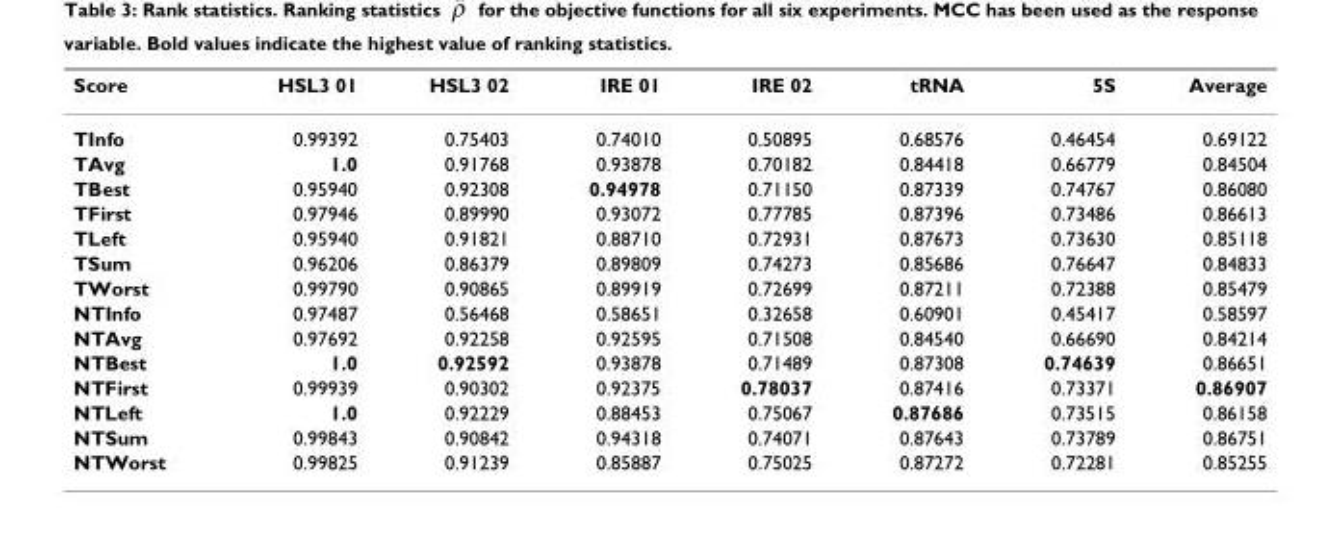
<table><thead><tr><td>Score</td><td>HSL3 01</td><td>HSL3 02</td><td>IRE 01</td><td>IRE 02</td><td>tRNA</td><td>5S</td><td>Average</td></tr></thead><tbody><tr><td>TInfo</td><td>0.99392</td><td>0.75403</td><td>0.74010</td><td>0.50895</td><td>0.68576</td><td>0.46454</td><td>0.69122</td></tr><tr><td>TAvg</td><td>1.0</td><td>0.91768</td><td>0.93878</td><td>0.70182</td><td>0.84418</td><td>0.66779</td><td>0.84504</td></tr><tr><td>TBest</td><td>0.95940</td><td>0.92308</td><td>0.94978</td><td>0.71150</td><td>0.87339</td><td>0.74767</td><td>0.86080</td></tr><tr><td>TFirst</td><td>0.97946</td><td>0.89990</td><td>0.93072</td><td>0.77785</td><td>0.87396</td><td>0.73486</td><td>0.86613</td></tr><tr><td>TLeft</td><td>0.95940</td><td>0.91821</td><td>0.88710</td><td>0.72931</td><td>0.87673</td><td>0.73630</td><td>0.85118</td></tr><tr><td>TSum</td><td>0.96206</td><td>0.86379</td><td>0.89809</td><td>0.74273</td><td>0.85686</td><td>0.76647</td><td>0.84833</td></tr><tr><td>TWorst</td><td>0.99790</td><td>0.90865</td><td>0.89919</td><td>0.72699</td><td>0.87211</td><td>0.72388</td><td>0.85479</td></tr><tr><td>NTInfo</td><td>0.97487</td><td>0.56468</td><td>0.58651</td><td>0.32658</td><td>0.60901</td><td>0.45417</td><td>0.58597</td></tr><tr><td>NTAvg</td><td>0.97692</td><td>0.92258</td><td>0.92595</td><td>0.71508</td><td>0.84540</td><td>0.66690</td><td>0.84214</td></tr><tr><td>NTBest</td><td>1.0</td><td>0.92592</td><td>0.93878</td><td>0.71489</td><td>0.87308</td><td>0.74639</td><td>0.86651</td></tr><tr><td>NTFirst</td><td>0.99939</td><td>0.90302</td><td>0.92375</td><td>0.78037</td><td>0.87416</td><td>0.73371</td><td>0.86907</td></tr><tr><td>NTLeft</td><td>1.0</td><td>0.92229</td><td>0.88453</td><td>0.75067</td><td>0.87686</td><td>0.73515</td><td>0.86158</td></tr><tr><td>NTSum</td><td>0.99843</td><td>0.90842</td><td>0.94318</td><td>0.74071</td><td>0.87643</td><td>0.73789</td><td>0.86751</td></tr><tr><td>NTWorst</td><td>0.99825</td><td>0.91239</td><td>0.85887</td><td>0.75025</td><td>0.87272</td><td>0.72281</td><td>0.85255</td></tr></tbody></table>